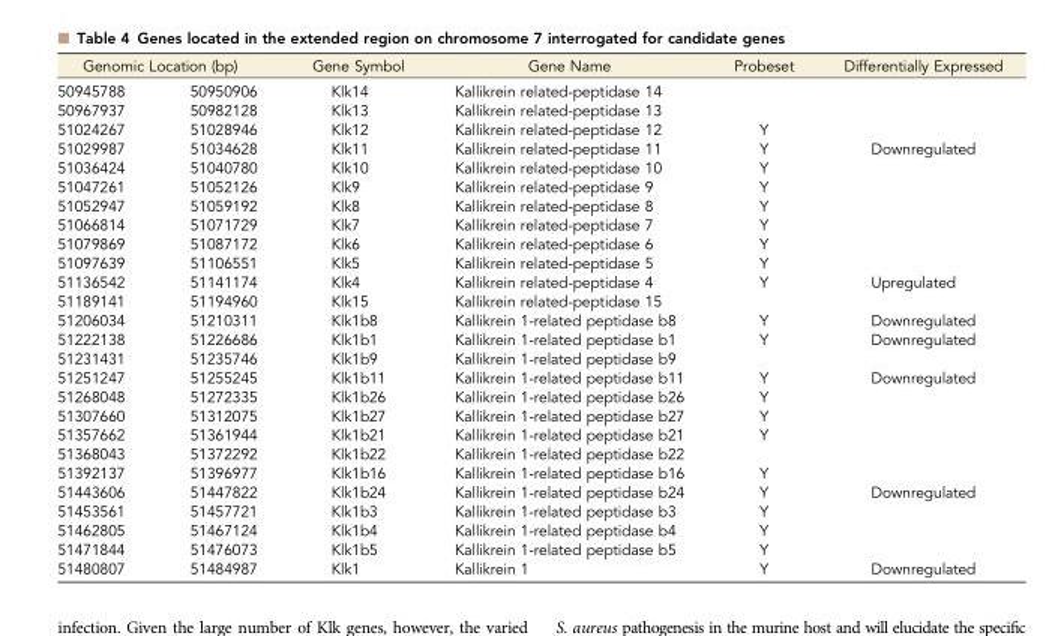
<table><thead><tr><td colspan="2">Genomic Location (bp)</td><td rowspan="2">Gene Symbol Klk14</td><td rowspan="2">Gene Name Kallikrein related-peptidase 14</td><td rowspan="2">Probeset</td><td rowspan="2">Differentially Expressed</td></tr><tr><td>50945788</td><td>50950906</td></tr></thead><tbody><tr><td>50967937</td><td>50982128</td><td>Klk13</td><td>Kallikrein related-peptidase 13</td><td></td><td></td></tr><tr><td>51024267</td><td>51028946</td><td>Klk12</td><td>Kallikrein related-peptidase 12</td><td>Y</td><td></td></tr><tr><td>51029987</td><td>51034628</td><td>Klk11</td><td>Kallikrein related-peptidase 11</td><td>Y</td><td>Downregulated</td></tr><tr><td>51036424</td><td>51040780</td><td>Klk10</td><td>Kallikrein related-peptidase 10</td><td>Y</td><td></td></tr><tr><td>51047261</td><td>51052126</td><td>Klk9</td><td>Kallikrein related-peptidase 9</td><td>Y</td><td></td></tr><tr><td>51052947</td><td>51059192</td><td>Klk8</td><td>Kallikrein related-peptidase 8</td><td>Y</td><td></td></tr><tr><td>51066814</td><td>51071729</td><td>Klk7</td><td>Kallikrein related-peptidase 7</td><td>Y</td><td></td></tr><tr><td>51079869</td><td>51087172</td><td>Klk6</td><td>Kallikrein related-peptidase 6</td><td>Y</td><td></td></tr><tr><td>51097639</td><td>51106551</td><td>Klk5</td><td>Kallikrein related-peptidase 5</td><td>Y</td><td></td></tr><tr><td>51136542</td><td>51141174</td><td>Klk4</td><td>Kallikrein related-peptidase 4</td><td>Y</td><td>Upregulated</td></tr><tr><td>51189141</td><td>51194960</td><td>Klk15</td><td>Kallikrein related-peptidase 15</td><td></td><td></td></tr><tr><td>51206034</td><td>51210311</td><td>Klk1b8</td><td>Kallikrein 1-related peptidase b8</td><td>Y</td><td>Downregulated</td></tr><tr><td>51222138</td><td>51226686</td><td>Klk1b1</td><td>Kallikrein 1-related peptidase b1</td><td>Y</td><td>Downregulated</td></tr><tr><td>51231431</td><td>51235746</td><td>Klk1b9</td><td>Kallikrein 1-related peptidase b9</td><td></td><td></td></tr><tr><td>51251247</td><td>51255245</td><td>Klk1b11</td><td>Kallikrein 1-related peptidase b11</td><td>Y</td><td>Downregulated</td></tr><tr><td>51268048</td><td>51272335</td><td>Klk1b26</td><td>Kallikrein 1-related peptidase b26</td><td>Y</td><td></td></tr><tr><td>51307660</td><td>51312075</td><td>Klk1b27</td><td>Kallikrein 1-related peptidase b27</td><td>Y</td><td></td></tr><tr><td>51357662</td><td>51361944</td><td>Klk1b21</td><td>Kallikrein 1-related peptidase b21</td><td>Y</td><td></td></tr><tr><td>51368043</td><td>51372292</td><td>Klk1b22</td><td>Kallikrein 1-related peptidase b22</td><td></td><td></td></tr><tr><td>51392137</td><td>51396977</td><td>Klk1b16</td><td>Kallikrein 1-related peptidase b16</td><td>Y</td><td></td></tr><tr><td>51443606</td><td>51447822</td><td>Klk1b24</td><td>Kallikrein 1-related peptidase b24</td><td>Y</td><td>Downregulated</td></tr><tr><td>51453561</td><td>51457721</td><td>Klk1b3</td><td>Kallikrein 1-related peptidase b3</td><td>Y</td><td></td></tr><tr><td>51462805</td><td>51467124</td><td>Klk1b4</td><td>Kallikrein 1-related peptidase b4</td><td>Y</td><td></td></tr><tr><td>51471844</td><td>51476073</td><td>Klk1b5</td><td>Kallikrein 1-related peptidase b5</td><td>Y</td><td></td></tr><tr><td>51480807</td><td>51484987</td><td>Klk1</td><td>Kallikrein 1</td><td>Y</td><td>Downregulated</td></tr></tbody></table>